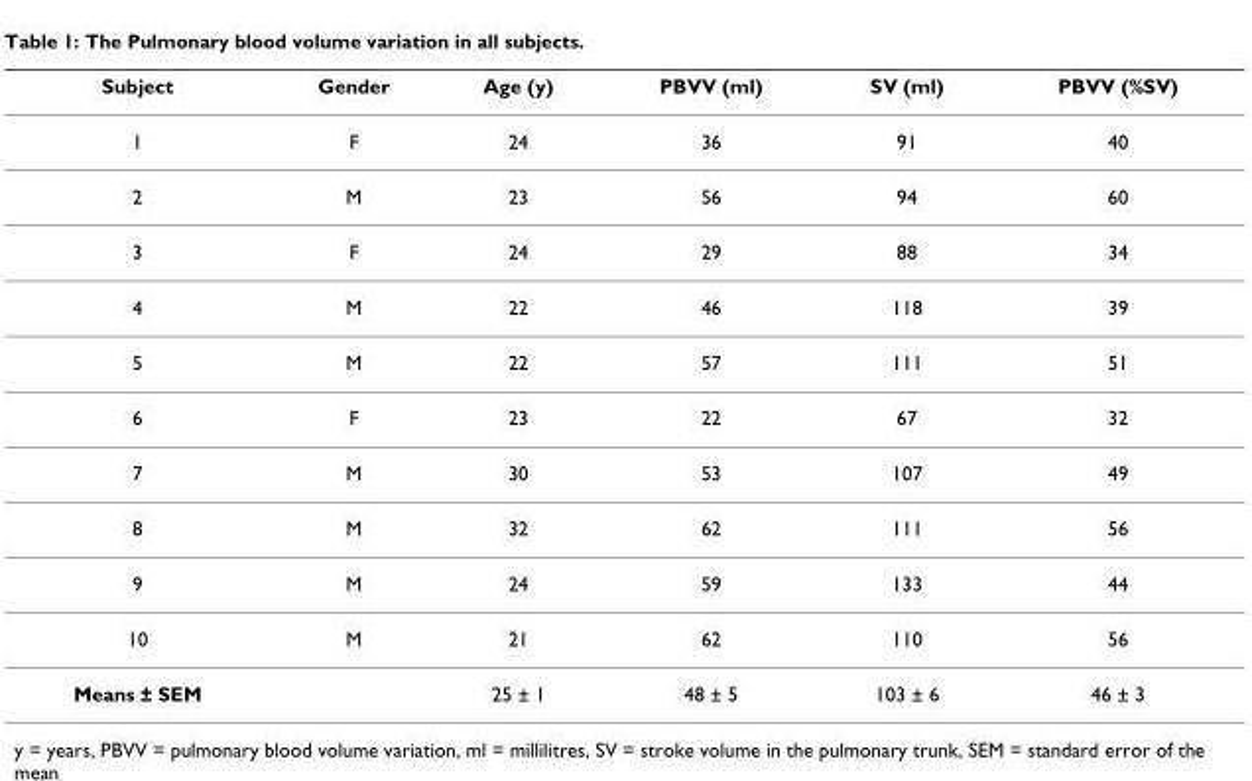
<table><thead><tr><td>Subject</td><td>Gender</td><td>Age (y)</td><td>PBVV (ml)</td><td>SV (ml)</td><td>PBVV (%SV)</td></tr></thead><tbody><tr><td>1</td><td>F</td><td>24</td><td>36</td><td>91</td><td>40</td></tr><tr><td>2</td><td>M</td><td>23</td><td>56</td><td>94</td><td>60</td></tr><tr><td>3</td><td>F</td><td>24</td><td>29</td><td>88</td><td>34</td></tr><tr><td>4</td><td>M</td><td>22</td><td>46</td><td>118</td><td>39</td></tr><tr><td>5</td><td>M</td><td>22</td><td>57</td><td>111</td><td>51</td></tr><tr><td>6</td><td>F</td><td>23</td><td>22</td><td>67</td><td>32</td></tr><tr><td>7</td><td>M</td><td>30</td><td>53</td><td>107</td><td>49</td></tr><tr><td>8</td><td>M</td><td>32</td><td>62</td><td>111</td><td>56</td></tr><tr><td>9</td><td>M</td><td>24</td><td>59</td><td>133</td><td>44</td></tr><tr><td>10</td><td>M</td><td>21</td><td>62</td><td>110</td><td>56</td></tr><tr><td>Means ± SEM</td><td></td><td>25 ± 1</td><td>48 ± 5</td><td>103 ± 6</td><td>46 ± 3</td></tr></tbody></table>